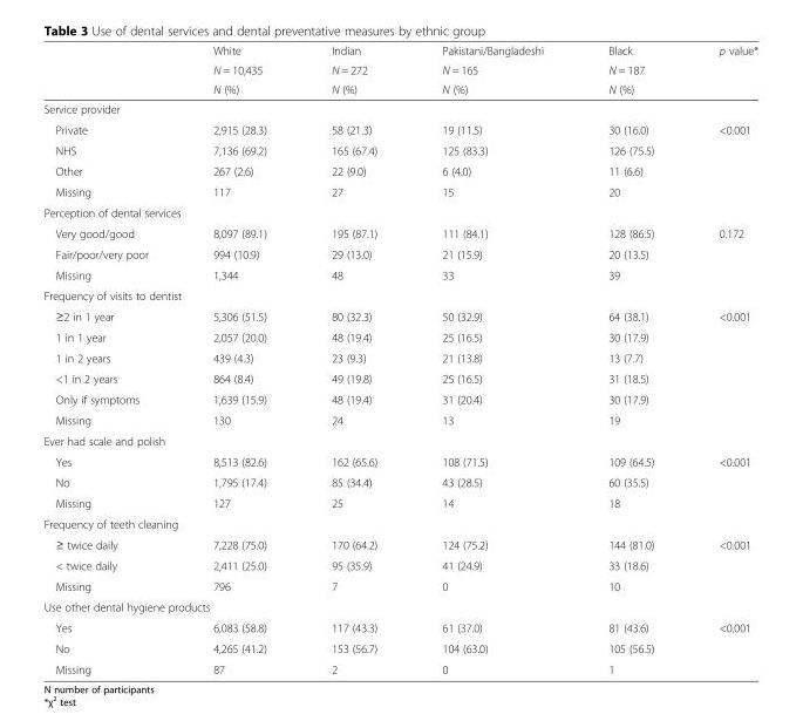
<table><thead><tr><td rowspan="3"></td><td rowspan="3">White N = 10,435 N (%)</td><td rowspan="3">Indian N = 272 N (%)</td><td rowspan="3">Pakistani/Bangladeshi N = 165 N (%)</td><td rowspan="3">Black N = 187 N (%)</td><td rowspan="3">p value*</td></tr><tr></tr><tr></tr></thead><tbody><tr><td colspan="6">Service provider</td></tr><tr><td>Private</td><td>2,915 (28.3)</td><td>58 (21.3)</td><td>19 (11.5)</td><td>30 (16.0)</td><td>&lt;0.001</td></tr><tr><td>NHS</td><td>7,136 (69.2)</td><td>165 (67.4)</td><td>125 (83.3)</td><td>126 (75.5)</td><td></td></tr><tr><td>Other</td><td>267 (2.6)</td><td>22 (9.0)</td><td>6 (4.0)</td><td>11 (6.6)</td><td></td></tr><tr><td>Missing</td><td>117</td><td>27</td><td>15</td><td>20</td><td></td></tr><tr><td colspan="6">Perception of dental services</td></tr><tr><td>Very good/good</td><td>8,097 (89.1)</td><td>195 (87.1)</td><td>111 (84.1)</td><td>128 (86.5)</td><td>0.172</td></tr><tr><td>Fair/poor/very poor</td><td>994 (10.9)</td><td>29 (13.0)</td><td>21 (15.9)</td><td>20 (13.5)</td><td></td></tr><tr><td>Missing</td><td>1,344</td><td>48</td><td>33</td><td>39</td><td></td></tr><tr><td colspan="6">Frequency of visits to dentist</td></tr><tr><td>≥2 in 1 year</td><td>5,306 (51.5)</td><td>80 (32.3)</td><td>50 (32.9)</td><td>64 (38.1)</td><td>&lt;0.001</td></tr><tr><td>1 in 1 year</td><td>2,057 (20.0)</td><td>48 (19.4)</td><td>25 (16.5)</td><td>30 (17.9)</td><td></td></tr><tr><td>1 in 2 years</td><td>439 (4.3)</td><td>23 (9.3)</td><td>21 (13.8)</td><td>13 (7.7)</td><td></td></tr><tr><td>&lt;1 in 2 years</td><td>864 (8.4)</td><td>49 (19.8)</td><td>25 (16.5)</td><td>31 (18.5)</td><td></td></tr><tr><td>Only if symptoms</td><td>1,639 (15.9)</td><td>48 (19.4)</td><td>31 (20.4)</td><td>30 (17.9)</td><td></td></tr><tr><td>Missing</td><td>130</td><td>24</td><td>13</td><td>19</td><td></td></tr><tr><td colspan="6">Ever had scale and polish</td></tr><tr><td>Yes</td><td>8,513 (82.6)</td><td>162 (65.6)</td><td>108 (71.5)</td><td>109 (64.5)</td><td>&lt;0.001</td></tr><tr><td>No</td><td>1,795 (17.4)</td><td>85 (34.4)</td><td>43 (28.5)</td><td>60 (35.5)</td><td></td></tr><tr><td>Missing</td><td>127</td><td>25</td><td>14</td><td>18</td><td></td></tr><tr><td colspan="6">Frequency of teeth cleaning</td></tr><tr><td>≥ twice daily</td><td>7,228 (75.0)</td><td>170 (64.2)</td><td>124 (75.2)</td><td>144 (81.0)</td><td>&lt;0.001</td></tr><tr><td>&lt; twice daily</td><td>2,411 (25.0)</td><td>95 (35.9)</td><td>41 (24.9)</td><td>33 (18.6)</td><td></td></tr><tr><td>Missing</td><td>796</td><td>7</td><td>0</td><td>10</td><td></td></tr><tr><td colspan="6">Use other dental hygiene products</td></tr><tr><td>Yes</td><td>6,083 (58.8)</td><td>117 (43.3)</td><td>61 (37.0)</td><td>81 (43.6)</td><td>&lt;0.001</td></tr><tr><td>No</td><td>4,265 (41.2)</td><td>153 (56.7)</td><td>104 (63.0)</td><td>105 (56.5)</td><td></td></tr><tr><td>Missing</td><td>87</td><td>2</td><td>0</td><td>1</td><td></td></tr></tbody></table>